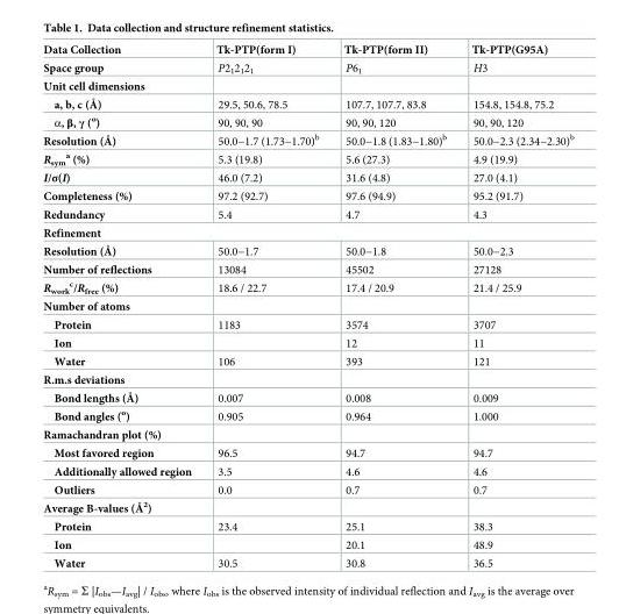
<table><thead><tr><td>Data Collection</td><td>Tk-PTP(form I)</td><td>Tk-PTP(form II)</td><td>Tk-PTP(G95A)</td></tr></thead><tbody><tr><td>Space group</td><td>P2<sub>1</sub>2<sub>1</sub>2<sub>1</sub></td><td>P6<sub>1</sub></td><td>H3</td></tr><tr><td colspan="4">Unit cell dimensions</td></tr><tr><td>a, b, c (Å)</td><td>29.5, 50.6, 78.5</td><td>107.7, 107.7, 83.8</td><td>154.8, 154.8, 75.2</td></tr><tr><td>α, β, γ (<sup>o</sup>)</td><td>90, 90, 90</td><td>90, 90, 120</td><td>90, 90, 120</td></tr><tr><td>Resolution (Å)</td><td>50.0−1.7 (1.73−1.70)<sup>b</sup></td><td>50.0−1.8 (1.83−1.80)<sup>b</sup></td><td>50.0−2.3 (2.34−2.30)<sup>b</sup></td></tr><tr><td>R<sub>sym</sub> <sup>a</sup> (%)</td><td>5.3 (19.8)</td><td>5.6 (27.3)</td><td>4.9 (19.9)</td></tr><tr><td>I/σ(I)</td><td>46.0 (7.2)</td><td>31.6 (4.8)</td><td>27.0 (4.1)</td></tr><tr><td>Completeness (%)</td><td>97.2 (92.7)</td><td>97.6 (94.9)</td><td>95.2 (91.7)</td></tr><tr><td>Redundancy</td><td>5.4</td><td>4.7</td><td>4.3</td></tr><tr><td colspan="4">Refinement</td></tr><tr><td>Resolution (Å)</td><td>50.0−1.7</td><td>50.0−1.8</td><td>50.0−2.3</td></tr><tr><td>Number of reflections</td><td>13084</td><td>45502</td><td>27128</td></tr><tr><td>R<sub>work</sub> <sup>c</sup>/R<sub>free</sub> (%)</td><td>18.6 / 22.7</td><td>17.4 / 20.9</td><td>21.4 / 25.9</td></tr><tr><td colspan="4">Number of atoms</td></tr><tr><td>Protein</td><td>1183</td><td>3574</td><td>3707</td></tr><tr><td>Ion</td><td></td><td>12</td><td>11</td></tr><tr><td>Water</td><td>106</td><td>393</td><td>121</td></tr><tr><td colspan="4">R.m.s deviations</td></tr><tr><td>Bond lengths (Å)</td><td>0.007</td><td>0.008</td><td>0.009</td></tr><tr><td>Bond angles (<sup>o</sup>)</td><td>0.905</td><td>0.964</td><td>1.000</td></tr><tr><td colspan="4">Ramachandran plot (%)</td></tr><tr><td>Most favored region</td><td>96.5</td><td>94.7</td><td>94.7</td></tr><tr><td>Additionally allowed region</td><td>3.5</td><td>4.6</td><td>4.6</td></tr><tr><td>Outliers</td><td>0.0</td><td>0.7</td><td>0.7</td></tr><tr><td colspan="4">Average B-values (Å<sup>2</sup>)</td></tr><tr><td>Protein</td><td>23.4</td><td>25.1</td><td>38.3</td></tr><tr><td>Ion</td><td></td><td>20.1</td><td>48.9</td></tr><tr><td>Water</td><td>30.5</td><td>30.8</td><td>36.5</td></tr></tbody></table>